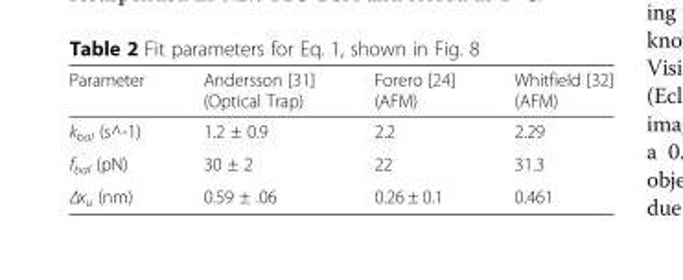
<table><thead><tr><td>Parameter</td><td>Andersson [31] (Optical Trap)</td><td>Forero [24] (AFM)</td><td>Whitfield [32] (AFM)</td></tr></thead><tbody><tr><td>k<sub>bal</sub> (s^-1)</td><td>1.2 ± 0.9</td><td>2.2</td><td>2.29</td></tr><tr><td>f<sub>bal</sub> (pN)</td><td>30 ± 2</td><td>22</td><td>31.3</td></tr><tr><td>Δxu (nm)</td><td>0.59 ± .06</td><td>0.26 ± 0.1</td><td>0.461</td></tr></tbody></table>